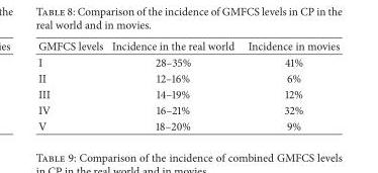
<table><thead><tr><td>GMFCS levels</td><td>Incidence in the real world</td><td>Incidence in movies</td></tr></thead><tbody><tr><td>I</td><td>28–35%</td><td>41%</td></tr><tr><td>II</td><td>12–16%</td><td>6%</td></tr><tr><td>III</td><td>14–19%</td><td>12%</td></tr><tr><td>IV</td><td>16–21%</td><td>32%</td></tr><tr><td>V</td><td>18–20%</td><td>9%</td></tr></tbody></table>